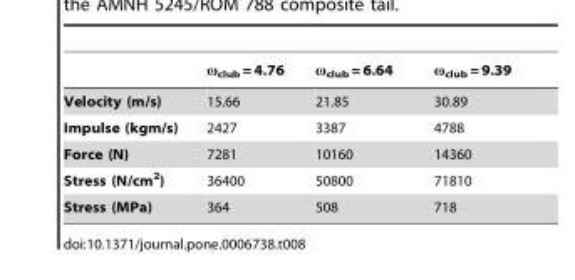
<table><thead><tr><td></td><td>ω<sub>club</sub> = 4.76</td><td>ω<sub>club</sub> = 6.64</td><td>ω<sub>club</sub> = 9.39</td></tr></thead><tbody><tr><td>Velocity (m/s)</td><td>15.66</td><td>21.85</td><td>30.89</td></tr><tr><td>Impulse (kgm/s)</td><td>2427</td><td>3387</td><td>4788</td></tr><tr><td>Force (N)</td><td>7281</td><td>10160</td><td>14360</td></tr><tr><td>Stress (N/cm<sup>2</sup>)</td><td>36400</td><td>50800</td><td>71810</td></tr><tr><td>Stress (MPa)</td><td>364</td><td>508</td><td>718</td></tr></tbody></table>